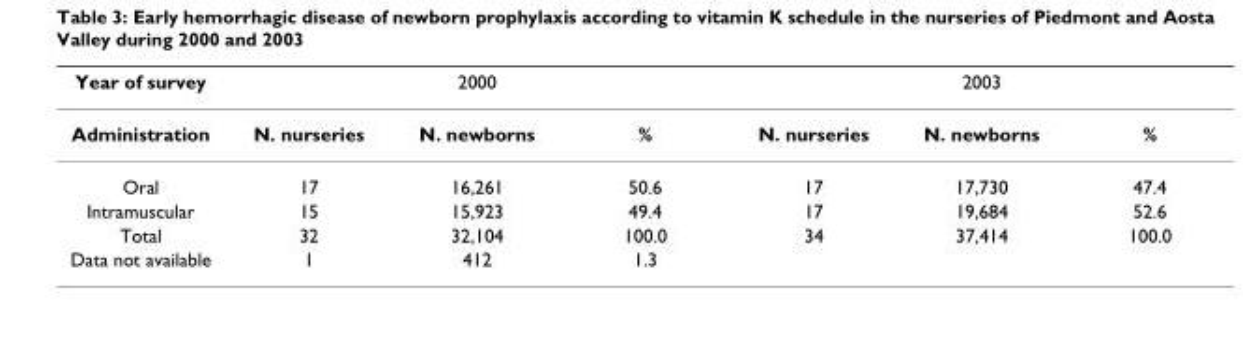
<table><thead><tr><td rowspan="2">Year of survey Administration</td><td colspan="3">2000</td><td colspan="3">2003</td></tr><tr><td>N. nurseries</td><td>N. newborns</td><td>%</td><td>N. nurseries</td><td>N. newborns</td><td>%</td></tr></thead><tbody><tr><td>Oral</td><td>17</td><td>16,261</td><td>50.6</td><td>17</td><td>17,730</td><td>47.4</td></tr><tr><td>Intramuscular</td><td>15</td><td>15,923</td><td>49.4</td><td>17</td><td>19,684</td><td>52.6</td></tr><tr><td>Total</td><td>32</td><td>32,104</td><td>100.0</td><td>34</td><td>37,414</td><td>100.0</td></tr><tr><td>Data not available</td><td>1</td><td>412</td><td>1.3</td><td></td><td></td><td></td></tr></tbody></table>